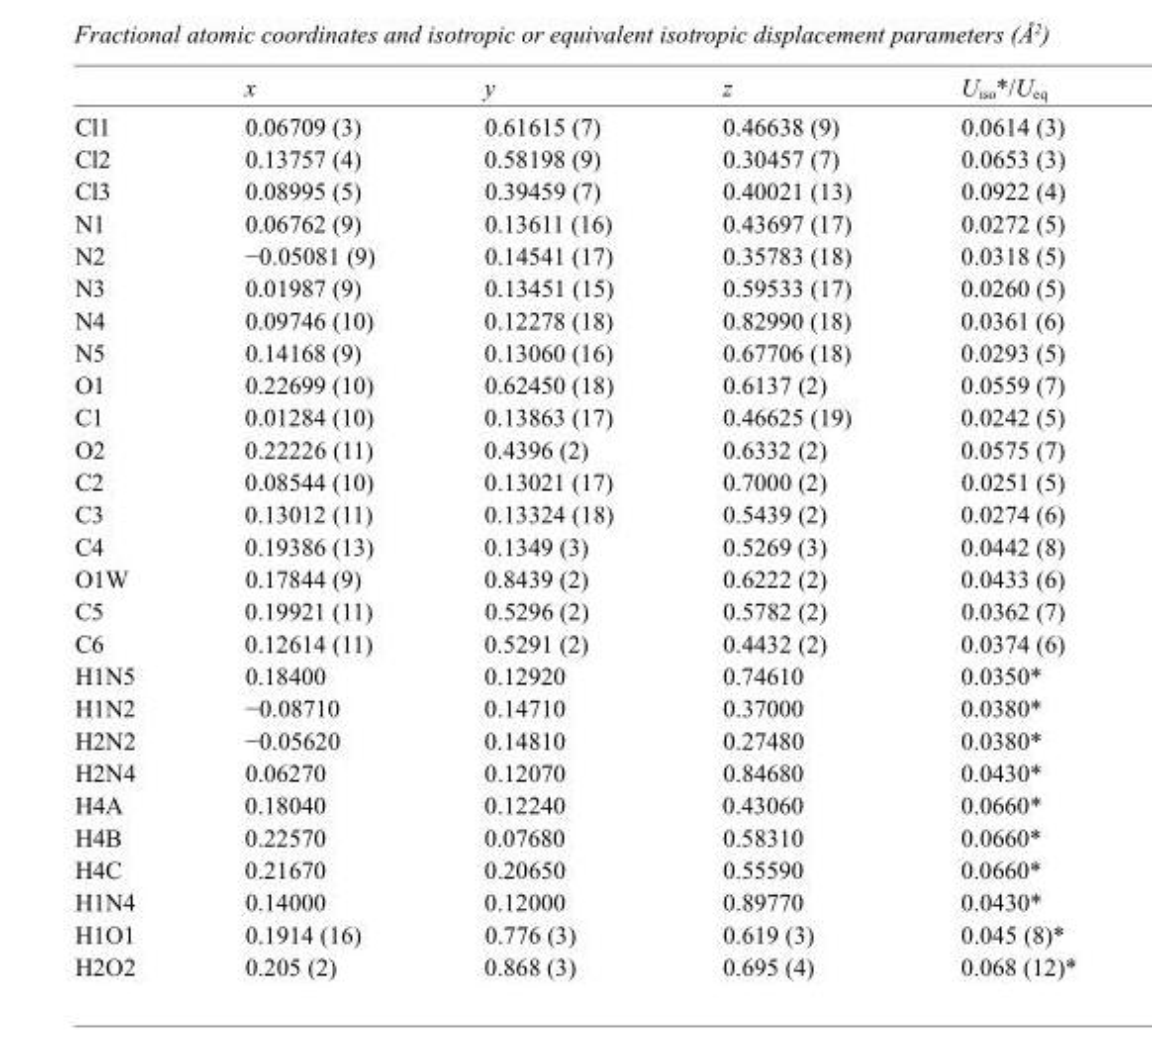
<table><thead><tr><td></td><td>x</td><td>y</td><td>z</td><td>U<sub>iso</sub>*/U<sub>eq</sub></td></tr></thead><tbody><tr><td>Cl1</td><td>0.06709 (3)</td><td>0.61615 (7)</td><td>0.46638 (9)</td><td>0.0614 (3)</td></tr><tr><td>Cl2</td><td>0.13757 (4)</td><td>0.58198 (9)</td><td>0.30457 (7)</td><td>0.0653 (3)</td></tr><tr><td>Cl3</td><td>0.08995 (5)</td><td>0.39459 (7)</td><td>0.40021 (13)</td><td>0.0922 (4)</td></tr><tr><td>N1</td><td>0.06762 (9)</td><td>0.13611 (16)</td><td>0.43697 (17)</td><td>0.0272 (5)</td></tr><tr><td>N2</td><td>−0.05081 (9)</td><td>0.14541 (17)</td><td>0.35783 (18)</td><td>0.0318 (5)</td></tr><tr><td>N3</td><td>0.01987 (9)</td><td>0.13451 (15)</td><td>0.59533 (17)</td><td>0.0260 (5)</td></tr><tr><td>N4</td><td>0.09746 (10)</td><td>0.12278 (18)</td><td>0.82990 (18)</td><td>0.0361 (6)</td></tr><tr><td>N5</td><td>0.14168 (9)</td><td>0.13060 (16)</td><td>0.67706 (18)</td><td>0.0293 (5)</td></tr><tr><td>O1</td><td>0.22699 (10)</td><td>0.62450 (18)</td><td>0.6137 (2)</td><td>0.0559 (7)</td></tr><tr><td>C1</td><td>0.01284 (10)</td><td>0.13863 (17)</td><td>0.46625 (19)</td><td>0.0242 (5)</td></tr><tr><td>O2</td><td>0.22226 (11)</td><td>0.4396 (2)</td><td>0.6332 (2)</td><td>0.0575 (7)</td></tr><tr><td>C2</td><td>0.08544 (10)</td><td>0.13021 (17)</td><td>0.7000 (2)</td><td>0.0251 (5)</td></tr><tr><td>C3</td><td>0.13012 (11)</td><td>0.13324 (18)</td><td>0.5439 (2)</td><td>0.0274 (6)</td></tr><tr><td>C4</td><td>0.19386 (13)</td><td>0.1349 (3)</td><td>0.5269 (3)</td><td>0.0442 (8)</td></tr><tr><td>O1W</td><td>0.17844 (9)</td><td>0.8439 (2)</td><td>0.6222 (2)</td><td>0.0433 (6)</td></tr><tr><td>C5</td><td>0.19921 (11)</td><td>0.5296 (2)</td><td>0.5782 (2)</td><td>0.0362 (7)</td></tr><tr><td>C6</td><td>0.12614 (11)</td><td>0.5291 (2)</td><td>0.4432 (2)</td><td>0.0374 (6)</td></tr><tr><td>H1N5</td><td>0.18400</td><td>0.12920</td><td>0.74610</td><td>0.0350*</td></tr><tr><td>H1N2</td><td>−0.08710</td><td>0.14710</td><td>0.37000</td><td>0.0380*</td></tr><tr><td>H2N2</td><td>−0.05620</td><td>0.14810</td><td>0.27480</td><td>0.0380*</td></tr><tr><td>H2N4</td><td>0.06270</td><td>0.12070</td><td>0.84680</td><td>0.0430*</td></tr><tr><td>H4A</td><td>0.18040</td><td>0.12240</td><td>0.43060</td><td>0.0660*</td></tr><tr><td>H4B</td><td>0.22570</td><td>0.07680</td><td>0.58310</td><td>0.0660*</td></tr><tr><td>H4C</td><td>0.21670</td><td>0.20650</td><td>0.55590</td><td>0.0660*</td></tr><tr><td>H1N4</td><td>0.14000</td><td>0.12000</td><td>0.89770</td><td>0.0430*</td></tr><tr><td>H1O1</td><td>0.1914 (16)</td><td>0.776 (3)</td><td>0.619 (3)</td><td>0.045 (8)*</td></tr><tr><td>H2O2</td><td>0.205 (2)</td><td>0.868 (3)</td><td>0.695 (4)</td><td>0.068 (12)*</td></tr></tbody></table>